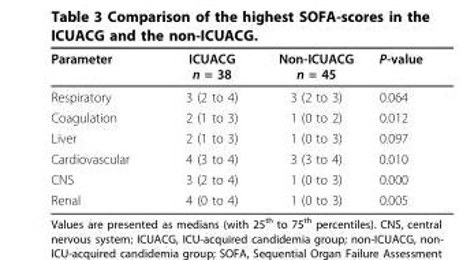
<table><thead><tr><td>Parameter</td><td>ICUACG n = 38</td><td>Non-ICUACG n = 45</td><td>P-value</td></tr></thead><tbody><tr><td>Respiratory</td><td>3 (2 to 4)</td><td>3 (2 to 3)</td><td>0.064</td></tr><tr><td>Coagulation</td><td>2 (1 to 3)</td><td>1 (0 to 2)</td><td>0.012</td></tr><tr><td>Liver</td><td>2 (1 to 3)</td><td>1 (0 to 3)</td><td>0.097</td></tr><tr><td>Cardiovascular</td><td>4 (3 to 4)</td><td>3 (3 to 4)</td><td>0.010</td></tr><tr><td>CNS</td><td>3 (2 to 4)</td><td>1 (0 to 3)</td><td>0.000</td></tr><tr><td>Renal</td><td>4 (0 to 4)</td><td>1 (0 to 3)</td><td>0.005</td></tr></tbody></table>